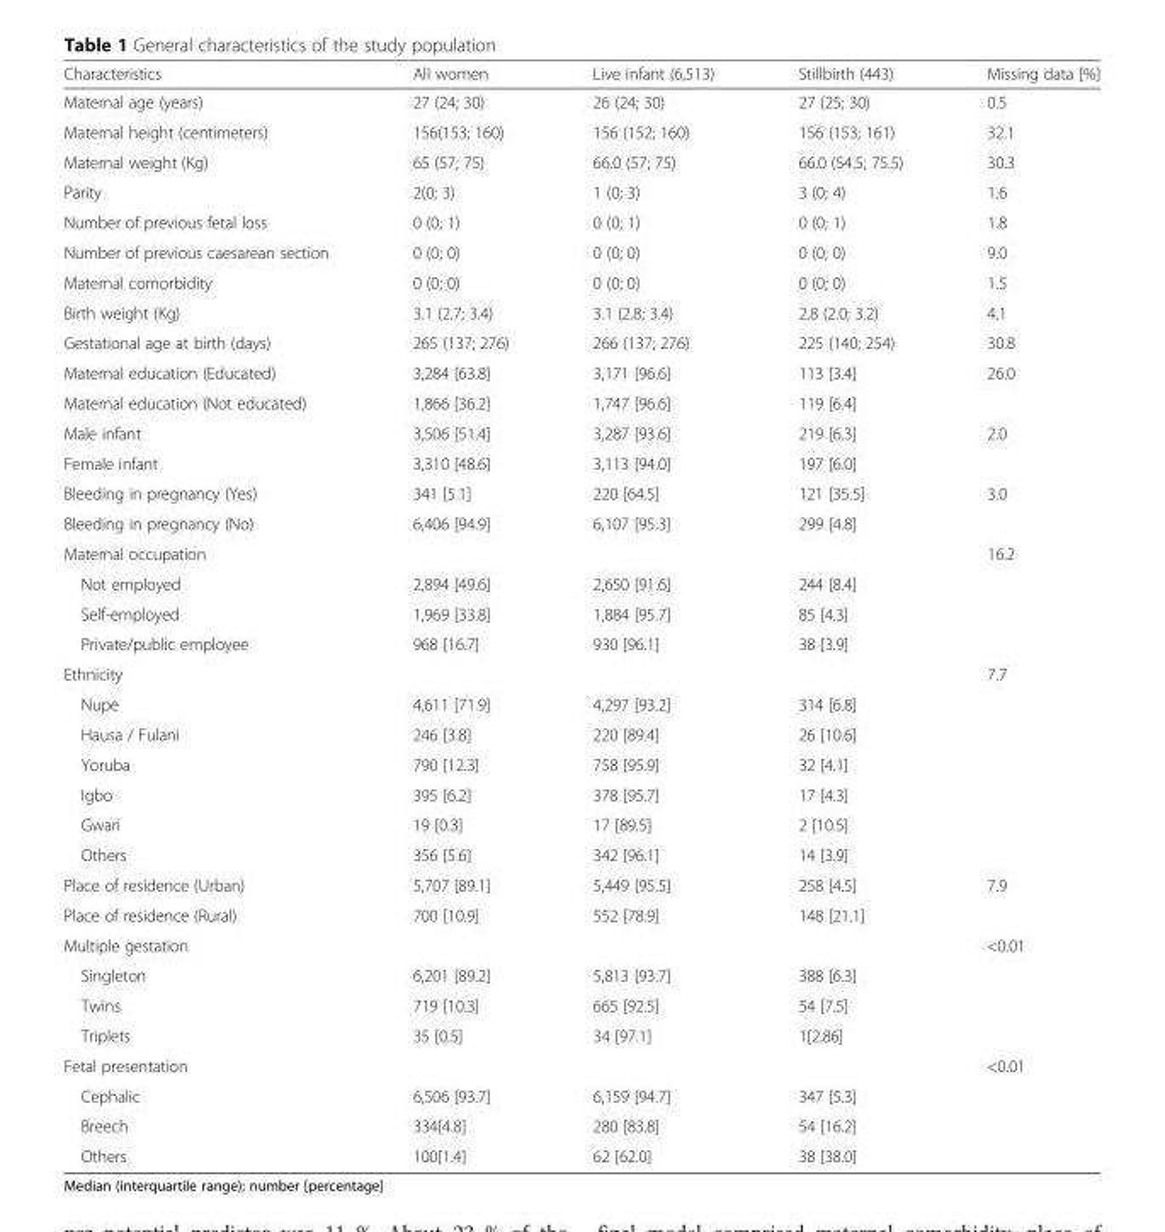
<table><thead><tr><td>Characteristics</td><td>All women</td><td>Live infant (6,513)</td><td>Stillbirth (443)</td><td>Missing data [%]</td></tr></thead><tbody><tr><td>Maternal age (years)</td><td>27 (24; 30)</td><td>26 (24; 30)</td><td>27 (25; 30)</td><td>0.5</td></tr><tr><td>Maternal height (centimeters)</td><td>156(153; 160)</td><td>156 (152; 160)</td><td>156 (153; 161)</td><td>32.1</td></tr><tr><td>Maternal weight (Kg)</td><td>65 (57; 75)</td><td>66.0 (57; 75)</td><td>66.0 (54.5; 75.5)</td><td>30.3</td></tr><tr><td>Parity</td><td>2(0; 3)</td><td>1 (0; 3)</td><td>3 (0; 4)</td><td>1.6</td></tr><tr><td>Number of previous fetal loss</td><td>0 (0; 1)</td><td>0 (0; 1)</td><td>0 (0; 1)</td><td>1.8</td></tr><tr><td>Number of previous caesarean section</td><td>0 (0; 0)</td><td>0 (0; 0)</td><td>0 (0; 0)</td><td>9.0</td></tr><tr><td>Maternal comorbidity</td><td>0 (0; 0)</td><td>0 (0; 0)</td><td>0 (0; 0)</td><td>1.5</td></tr><tr><td>Birth weight (Kg)</td><td>3.1 (2.7; 3.4)</td><td>3.1 (2.8; 3.4)</td><td>2.8 (2.0; 3.2)</td><td>4.1</td></tr><tr><td>Gestational age at birth (days)</td><td>265 (137; 276)</td><td>266 (137; 276)</td><td>225 (140; 254)</td><td>30.8</td></tr><tr><td>Maternal education (Educated)</td><td>3,284 [63.8]</td><td>3,171 [96.6]</td><td>113 [3.4]</td><td>26.0</td></tr><tr><td>Maternal education (Not educated)</td><td>1,866 [36.2]</td><td>1,747 [96.6]</td><td>119 [6.4]</td><td></td></tr><tr><td>Male infant</td><td>3,506 [51.4]</td><td>3,287 [93.6]</td><td>219 [6.3]</td><td>2.0</td></tr><tr><td>Female infant</td><td>3,310 [48.6]</td><td>3,113 [94.0]</td><td>197 [6.0]</td><td></td></tr><tr><td>Bleeding in pregnancy (Yes)</td><td>341 [5.1]</td><td>220 [64.5]</td><td>121 [35.5]</td><td>3.0</td></tr><tr><td>Bleeding in pregnancy (No)</td><td>6,406 [94.9]</td><td>6,107 [95.3]</td><td>299 [4.8]</td><td></td></tr><tr><td>Maternal occupation</td><td></td><td></td><td></td><td>16.2</td></tr><tr><td>Not employed</td><td>2,894 [49.6]</td><td>2,650 [91.6]</td><td>244 [8.4]</td><td></td></tr><tr><td>Self-employed</td><td>1,969 [33.8]</td><td>1,884 [95.7]</td><td>85 [4.3]</td><td></td></tr><tr><td>Private/public employee</td><td>968 [16.7]</td><td>930 [96.1]</td><td>38 [3.9]</td><td></td></tr><tr><td>Ethnicity</td><td></td><td></td><td></td><td>7.7</td></tr><tr><td>Nupe</td><td>4,611 [71.9]</td><td>4,297 [93.2]</td><td>314 [6.8]</td><td></td></tr><tr><td>Hausa / Fulani</td><td>246 [3.8]</td><td>220 [89.4]</td><td>26 [10.6]</td><td></td></tr><tr><td>Yoruba</td><td>790 [12.3]</td><td>758 [95.9]</td><td>32 [4.1]</td><td></td></tr><tr><td>Igbo</td><td>395 [6.2]</td><td>378 [95.7]</td><td>17 [4.3]</td><td></td></tr><tr><td>Gwari</td><td>19 [0.3]</td><td>17 [89.5]</td><td>2 [10.5]</td><td></td></tr><tr><td>Others</td><td>356 [5.6]</td><td>342 [96.1]</td><td>14 [3.9]</td><td></td></tr><tr><td>Place of residence (Urban)</td><td>5,707 [89.1]</td><td>5,449 [95.5]</td><td>258 [4.5]</td><td>7.9</td></tr><tr><td>Place of residence (Rural)</td><td>700 [10.9]</td><td>552 [78.9]</td><td>148 [21.1]</td><td></td></tr><tr><td>Multiple gestation</td><td></td><td></td><td></td><td>&lt;0.01</td></tr><tr><td>Singleton</td><td>6,201 [89.2]</td><td>5,813 [93.7]</td><td>388 [6.3]</td><td></td></tr><tr><td>Twins</td><td>719 [10.3]</td><td>665 [92.5]</td><td>54 [7.5]</td><td></td></tr><tr><td>Triplets</td><td>35 [0.5]</td><td>34 [97.1]</td><td>1[2.86]</td><td></td></tr><tr><td>Fetal presentation</td><td></td><td></td><td></td><td>&lt;0.01</td></tr><tr><td>Cephalic</td><td>6,506 [93.7]</td><td>6,159 [94.7]</td><td>347 [5.3]</td><td></td></tr><tr><td>Breech</td><td>334[4.8]</td><td>280 [83.8]</td><td>54 [16.2]</td><td></td></tr><tr><td>Others</td><td>100[1.4]</td><td>62 [62.0]</td><td>38 [38.0]</td><td></td></tr></tbody></table>